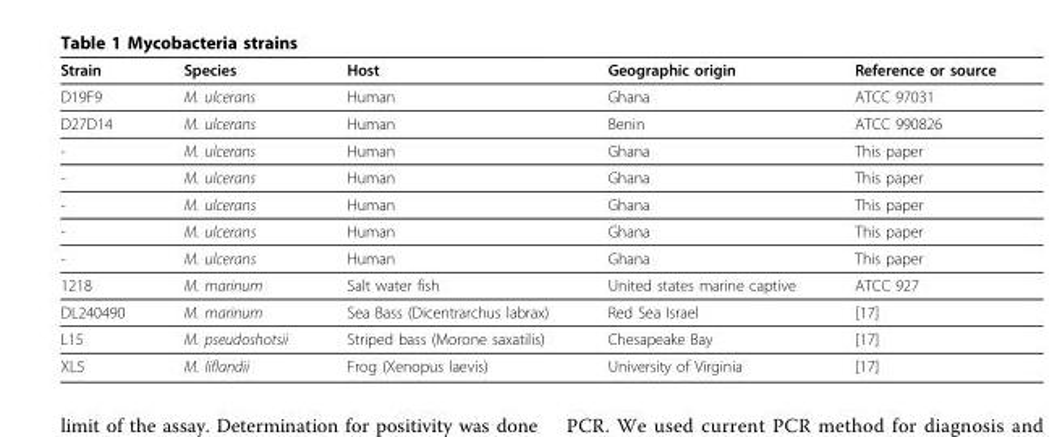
<table><thead><tr><td>Strain</td><td>Species</td><td>Host</td><td>Geographic origin</td><td>Reference or source</td></tr></thead><tbody><tr><td>D19F9</td><td>M. ulcerans</td><td>Human</td><td>Ghana</td><td>ATCC 97031</td></tr><tr><td>D27D14</td><td>M. ulcerans</td><td>Human</td><td>Benin</td><td>ATCC 990826</td></tr><tr><td>-</td><td>M. ulcerans</td><td>Human</td><td>Ghana</td><td>This paper</td></tr><tr><td>-</td><td>M. ulcerans</td><td>Human</td><td>Ghana</td><td>This paper</td></tr><tr><td>-</td><td>M. ulcerans</td><td>Human</td><td>Ghana</td><td>This paper</td></tr><tr><td>-</td><td>M. ulcerans</td><td>Human</td><td>Ghana</td><td>This paper</td></tr><tr><td>-</td><td>M. ulcerans</td><td>Human</td><td>Ghana</td><td>This paper</td></tr><tr><td>1218</td><td>M. marinum</td><td>Salt water fish</td><td>United states marine captive</td><td>ATCC 927</td></tr><tr><td>DL240490</td><td>M. marinum</td><td>Sea Bass (Dicentrarchus labrax)</td><td>Red Sea Israel</td><td>[17]</td></tr><tr><td>L15</td><td>M. pseudoshotsii</td><td>Striped bass (Morone saxatilis)</td><td>Chesapeake Bay</td><td>[17]</td></tr><tr><td>XL5</td><td>M. liflandii</td><td>Frog (Xenopus laevis)</td><td>University of Virginia</td><td>[17]</td></tr></tbody></table>